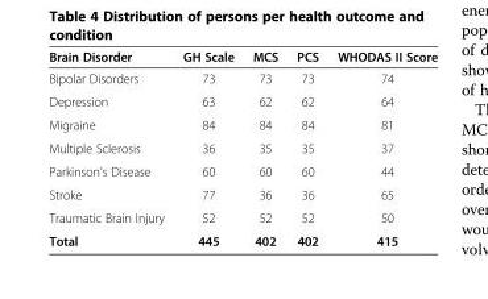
<table><thead><tr><td>Brain Disorder</td><td>GH Scale</td><td>MCS</td><td>PCS</td><td>WHODAS II Score</td></tr></thead><tbody><tr><td>Bipolar Disorders</td><td>73</td><td>73</td><td>73</td><td>74</td></tr><tr><td>Depression</td><td>63</td><td>62</td><td>62</td><td>64</td></tr><tr><td>Migraine</td><td>84</td><td>84</td><td>84</td><td>81</td></tr><tr><td>Multiple Sclerosis</td><td>36</td><td>35</td><td>35</td><td>37</td></tr><tr><td>Parkinson&#x27;s Disease</td><td>60</td><td>60</td><td>60</td><td>44</td></tr><tr><td>Stroke</td><td>77</td><td>36</td><td>36</td><td>65</td></tr><tr><td>Traumatic Brain Injury</td><td>52</td><td>52</td><td>52</td><td>50</td></tr><tr><td>Total</td><td>445</td><td>402</td><td>402</td><td>415</td></tr></tbody></table>